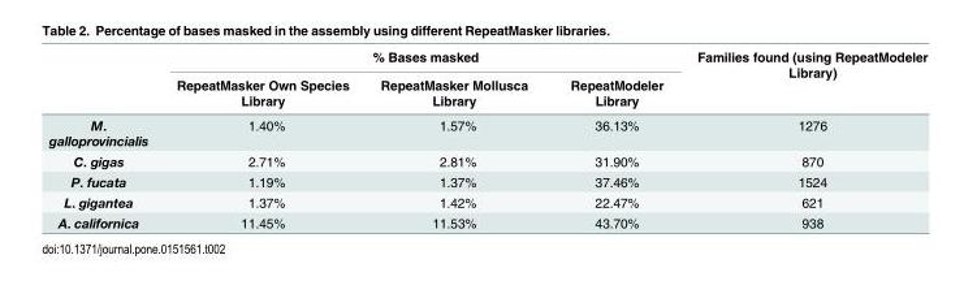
<table><thead><tr><td rowspan="2"></td><td colspan="3">% Bases masked</td><td rowspan="2">Families found (using RepeatModeler Library)</td></tr><tr><td>RepeatMasker Own Species Library</td><td>RepeatMasker Mollusca Library</td><td>RepeatModeler Library</td></tr></thead><tbody><tr><td>M. galloprovincialis</td><td>1.40%</td><td>1.57%</td><td>36.13%</td><td>1276</td></tr><tr><td>C. gigas</td><td>2.71%</td><td>2.81%</td><td>31.90%</td><td>870</td></tr><tr><td>P. fucata</td><td>1.19%</td><td>1.37%</td><td>37.46%</td><td>1524</td></tr><tr><td>L. gigantea</td><td>1.37%</td><td>1.42%</td><td>22.47%</td><td>621</td></tr><tr><td>A. californica</td><td>11.45%</td><td>11.53%</td><td>43.70%</td><td>938</td></tr></tbody></table>